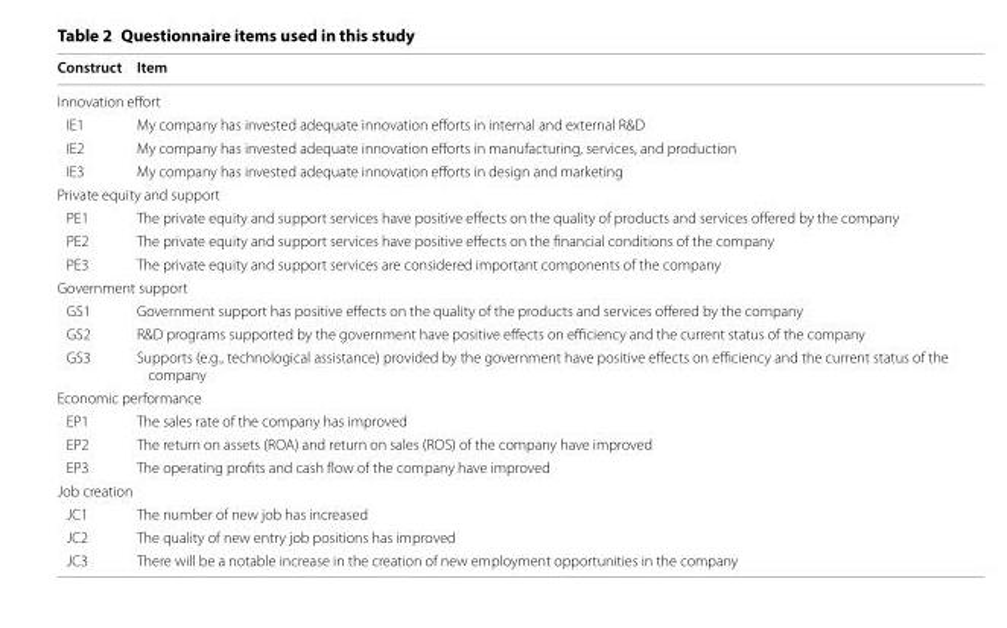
<table><thead><tr><td>Construct</td><td>Item</td></tr></thead><tbody><tr><td colspan="2">Innovation effort</td></tr><tr><td>IE1</td><td>My company has invested adequate innovation efforts in internal and external R&amp;D</td></tr><tr><td>IE2</td><td>My company has invested adequate innovation efforts in manufacturing, services, and production</td></tr><tr><td>IE3</td><td>My company has invested adequate innovation efforts in design and marketing</td></tr><tr><td colspan="2">Private equity and support</td></tr><tr><td>PE1</td><td>The private equity and support services have positive effects on the quality of products and services offered by the company</td></tr><tr><td>PE2</td><td>The private equity and support services have positive effects on the financial conditions of the company</td></tr><tr><td>PE3</td><td>The private equity and support services are considered important components of the company</td></tr><tr><td colspan="2">Government support</td></tr><tr><td>GS1</td><td>Government support has positive effects on the quality of the products and services offered by the company</td></tr><tr><td>GS2</td><td>R&amp;D programs supported by the government have positive effects on efficiency and the current status of the company</td></tr><tr><td>GS3</td><td>Supports (e.g., technological assistance) provided by the government have positive effects on efficiency and the current status of the company</td></tr><tr><td colspan="2">Economic performance</td></tr><tr><td>EP1</td><td>The sales rate of the company has improved</td></tr><tr><td>EP2</td><td>The return on assets (ROA) and return on sales (ROS) of the company have improved</td></tr><tr><td>EP3</td><td>The operating profits and cash flow of the company have improved</td></tr><tr><td colspan="2">Job creation</td></tr><tr><td>JC1</td><td>The number of new job has increased</td></tr><tr><td>JC2</td><td>The quality of new entry job positions has improved</td></tr><tr><td>JC3</td><td>There will be a notable increase in the creation of new employment opportunities in the company</td></tr></tbody></table>